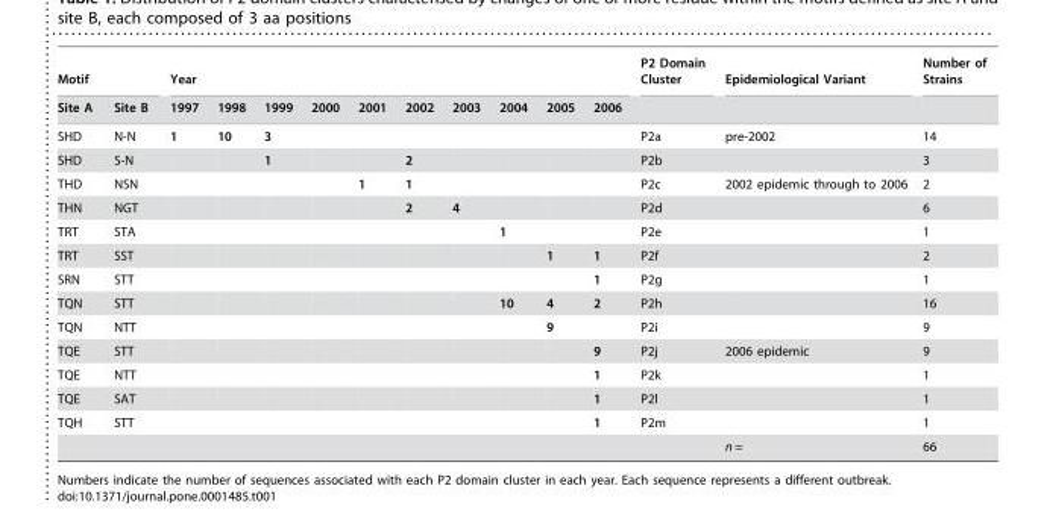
<table><thead><tr><td colspan="2">Motif</td><td colspan="10">Year</td><td rowspan="2">P2 Domain Cluster</td><td rowspan="2">Epidemiological Variant</td><td rowspan="2">Number of Strains</td></tr><tr><td>Site A</td><td>Site B</td><td>1997</td><td>1998</td><td>1999</td><td>2000</td><td>2001</td><td>2002</td><td>2003</td><td>2004</td><td>2005</td><td>2006</td></tr></thead><tbody><tr><td>SHD</td><td>N-N</td><td>1</td><td>10</td><td>3</td><td></td><td></td><td></td><td></td><td></td><td></td><td></td><td>P2a</td><td>pre-2002</td><td>14</td></tr><tr><td>SHD</td><td>S-N</td><td></td><td></td><td>1</td><td></td><td></td><td>2</td><td></td><td></td><td></td><td></td><td>P2b</td><td></td><td>3</td></tr><tr><td>THD</td><td>NSN</td><td></td><td></td><td></td><td></td><td>1</td><td>1</td><td></td><td></td><td></td><td></td><td>P2c</td><td>2002 epidemic through to 2006</td><td>2</td></tr><tr><td>THN</td><td>NGT</td><td></td><td></td><td></td><td></td><td></td><td>2</td><td>4</td><td></td><td></td><td></td><td>P2d</td><td></td><td>6</td></tr><tr><td>TRT</td><td>STA</td><td></td><td></td><td></td><td></td><td></td><td></td><td></td><td>1</td><td></td><td></td><td>P2e</td><td></td><td>1</td></tr><tr><td>TRT</td><td>SST</td><td></td><td></td><td></td><td></td><td></td><td></td><td></td><td></td><td>1</td><td>1</td><td>P2f</td><td></td><td>2</td></tr><tr><td>SRN</td><td>STT</td><td></td><td></td><td></td><td></td><td></td><td></td><td></td><td></td><td></td><td>1</td><td>P2g</td><td></td><td>1</td></tr><tr><td>TQN</td><td>STT</td><td></td><td></td><td></td><td></td><td></td><td></td><td></td><td>10</td><td>4</td><td>2</td><td>P2h</td><td></td><td>16</td></tr><tr><td>TQN</td><td>NTT</td><td></td><td></td><td></td><td></td><td></td><td></td><td></td><td></td><td>9</td><td></td><td>P2i</td><td></td><td>9</td></tr><tr><td>TQE</td><td>STT</td><td></td><td></td><td></td><td></td><td></td><td></td><td></td><td></td><td></td><td>9</td><td>P2j</td><td>2006 epidemic</td><td>9</td></tr><tr><td>TQE</td><td>NTT</td><td></td><td></td><td></td><td></td><td></td><td></td><td></td><td></td><td></td><td>1</td><td>P2k</td><td></td><td>1</td></tr><tr><td>TQE</td><td>SAT</td><td></td><td></td><td></td><td></td><td></td><td></td><td></td><td></td><td></td><td>1</td><td>P2l</td><td></td><td>1</td></tr><tr><td rowspan="2">TQH</td><td>STT</td><td></td><td></td><td></td><td></td><td></td><td></td><td></td><td></td><td></td><td>1</td><td>P2m</td><td></td><td>1</td></tr><tr><td></td><td></td><td></td><td></td><td></td><td></td><td></td><td></td><td></td><td></td><td></td><td></td><td>n =</td><td>66</td></tr></tbody></table>